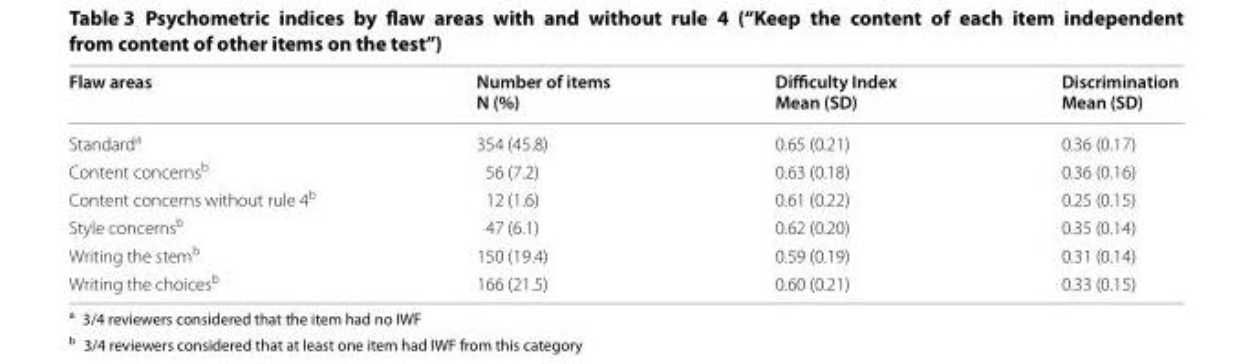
<table><thead><tr><td>Flaw areas</td><td>Number of items N (%)</td><td>Difficulty Index Mean (SD)</td><td>Discrimination Mean (SD)</td></tr></thead><tbody><tr><td>Standard<sup>a</sup></td><td>354 (45.8)</td><td>0.65 (0.21)</td><td>0.36 (0.17)</td></tr><tr><td>Content concerns<sup>b</sup></td><td>56 (7.2)</td><td>0.63 (0.18)</td><td>0.36 (0.16)</td></tr><tr><td>Content concerns without rule 4<sup>b</sup></td><td>12 (1.6)</td><td>0.61 (0.22)</td><td>0.25 (0.15)</td></tr><tr><td>Style concerns<sup>b</sup></td><td>47 (6.1)</td><td>0.62 (0.20)</td><td>0.35 (0.14)</td></tr><tr><td>Writing the stem<sup>b</sup></td><td>150 (19.4)</td><td>0.59 (0.19)</td><td>0.31 (0.14)</td></tr><tr><td>Writing the choices<sup>b</sup></td><td>166 (21.5)</td><td>0.60 (0.21)</td><td>0.33 (0.15)</td></tr></tbody></table>